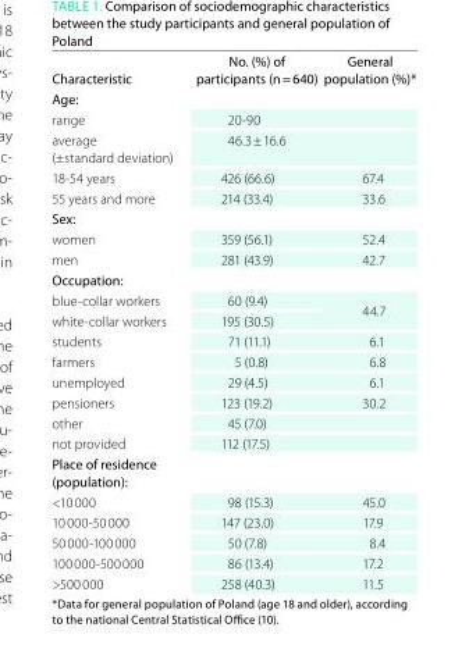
<table><thead><tr><td>Characteristic</td><td>no. (%) of participants (n = 640)</td><td>General population (%)*</td></tr></thead><tbody><tr><td colspan="3">Age:</td></tr><tr><td>range</td><td>20-90</td><td></td></tr><tr><td>average (±standard deviation)</td><td>46.3 ± 16.6</td><td></td></tr><tr><td>18-54 years</td><td>426 (66.6)</td><td>67.4</td></tr><tr><td>55 years and more</td><td>214 (33.4)</td><td>33.6</td></tr><tr><td colspan="3">Sex:</td></tr><tr><td>women</td><td>359 (56.1)</td><td>52.4</td></tr><tr><td>men</td><td>281 (43.9)</td><td>42.7</td></tr><tr><td colspan="3">occupation:</td></tr><tr><td>blue-collar workers</td><td>60 (9.4)</td><td rowspan="2">44.7</td></tr><tr><td>white-collar workers</td><td>195 (30.5)</td></tr><tr><td>students</td><td>71 (11.1)</td><td>6.1</td></tr><tr><td>farmers</td><td>5 (0.8)</td><td>6.8</td></tr><tr><td>unemployed</td><td>29 (4.5)</td><td>6.1</td></tr><tr><td>pensioners</td><td>123 (19.2)</td><td>30.2</td></tr><tr><td>other</td><td>45 (7.0)</td><td></td></tr><tr><td>not provided</td><td>112 (17.5)</td><td></td></tr><tr><td colspan="3">Place of residence (population):</td></tr><tr><td>&lt;10 000</td><td>98 (15.3)</td><td>45.0</td></tr><tr><td>10 000-50 000</td><td>147 (23.0)</td><td>17.9</td></tr><tr><td>50 000-100 000</td><td>50 (7.8)</td><td>8.4</td></tr><tr><td>100 000-500 000</td><td>86 (13.4)</td><td>17.2</td></tr><tr><td>&gt;500 000</td><td>258 (40.3)</td><td>11.5</td></tr></tbody></table>